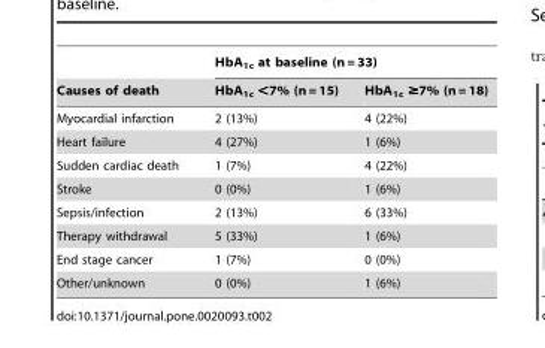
<table><thead><tr><td rowspan="2">Causes of death</td><td colspan="2">HbA<sub>1c</sub> at baseline (n = 33)</td></tr><tr><td>HbA<sub>1c</sub> &lt;7% (n = 15)</td><td>HbA<sub>1c</sub> ≥7% (n = 18)</td></tr></thead><tbody><tr><td>Myocardial infarction</td><td>2 (13%)</td><td>4 (22%)</td></tr><tr><td>Heart failure</td><td>4 (27%)</td><td>1 (6%)</td></tr><tr><td>Sudden cardiac death</td><td>1 (7%)</td><td>4 (22%)</td></tr><tr><td>Stroke</td><td>0 (0%)</td><td>1 (6%)</td></tr><tr><td>Sepsis/infection</td><td>2 (13%)</td><td>6 (33%)</td></tr><tr><td>Therapy withdrawal</td><td>5 (33%)</td><td>1 (6%)</td></tr><tr><td>End stage cancer</td><td>1 (7%)</td><td>0 (0%)</td></tr><tr><td>Other/unknown</td><td>0 (0%)</td><td>1 (6%)</td></tr></tbody></table>